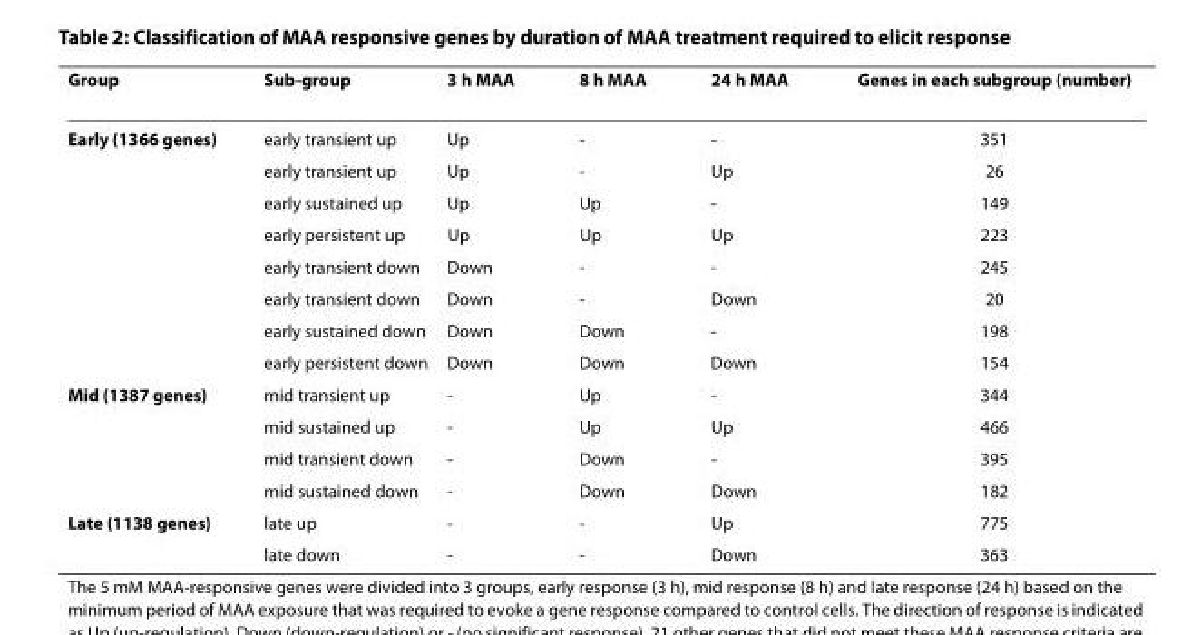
<table><thead><tr><td>Group</td><td>Sub-group</td><td>3 h MAA</td><td>8 h MAA</td><td>24 h MAA</td><td>Genes in each subgroup (number)</td></tr></thead><tbody><tr><td rowspan="8">Early (1366 genes)</td><td>early transient up</td><td>Up</td><td>-</td><td>-</td><td>351</td></tr><tr><td>early transient up</td><td>Up</td><td>-</td><td>Up</td><td>26</td></tr><tr><td>early sustained up</td><td>Up</td><td>Up</td><td>-</td><td>149</td></tr><tr><td>early persistent up</td><td>Up</td><td>Up</td><td>Up</td><td>223</td></tr><tr><td>early transient down</td><td>Down</td><td>-</td><td>-</td><td>245</td></tr><tr><td>early transient down</td><td>Down</td><td>-</td><td>Down</td><td>20</td></tr><tr><td>early sustained down</td><td>Down</td><td>Down</td><td>-</td><td>198</td></tr><tr><td>early persistent down</td><td>Down</td><td>Down</td><td>Down</td><td>154</td></tr><tr><td rowspan="4">Mid (1387 genes)</td><td>mid transient up</td><td>-</td><td>Up</td><td>-</td><td>344</td></tr><tr><td>mid sustained up</td><td>-</td><td>Up</td><td>Up</td><td>466</td></tr><tr><td>mid transient down</td><td>-</td><td>Down</td><td>-</td><td>395</td></tr><tr><td>mid sustained down</td><td>-</td><td>Down</td><td>Down</td><td>182</td></tr><tr><td rowspan="2">Late (1138 genes)</td><td>late up</td><td>-</td><td>-</td><td>Up</td><td>775</td></tr><tr><td>late down</td><td>-</td><td>-</td><td>Down</td><td>363</td></tr></tbody></table>